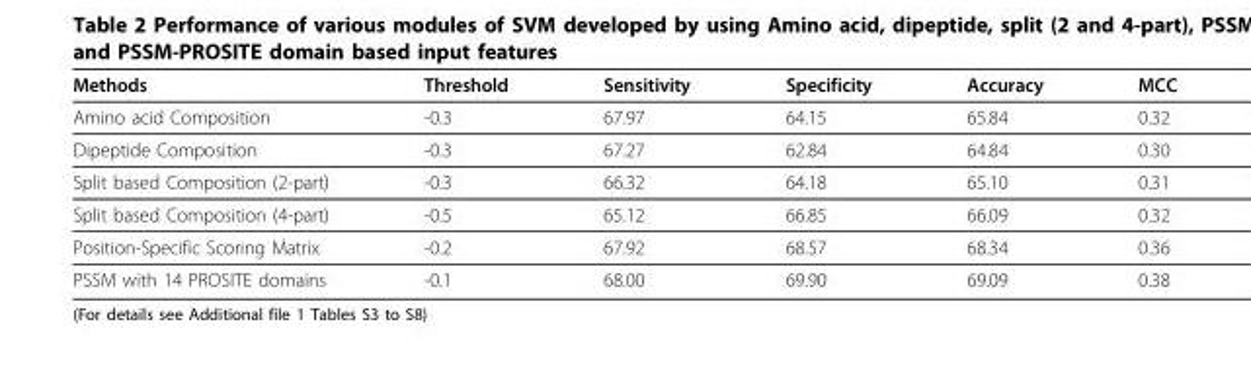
<table><thead><tr><td>Methods</td><td>Threshold</td><td>Sensitivity</td><td>Specificity</td><td>Accuracy</td><td>MCC</td></tr></thead><tbody><tr><td>Amino acid Composition</td><td>-0.3</td><td>67.97</td><td>64.15</td><td>65.84</td><td>0.32</td></tr><tr><td>Dipeptide Composition</td><td>-0.3</td><td>67.27</td><td>62.84</td><td>64.84</td><td>0.30</td></tr><tr><td>Split based Composition (2-part)</td><td>-0.3</td><td>66.32</td><td>64.18</td><td>65.10</td><td>0.31</td></tr><tr><td>Split based Composition (4-part)</td><td>-0.5</td><td>65.12</td><td>66.85</td><td>66.09</td><td>0.32</td></tr><tr><td>Position-Specific Scoring Matrix</td><td>-0.2</td><td>67.92</td><td>68.57</td><td>68.34</td><td>0.36</td></tr><tr><td>PSSM with 14 PROSITE domains</td><td>-0.1</td><td>68.00</td><td>69.90</td><td>69.09</td><td>0.38</td></tr></tbody></table>